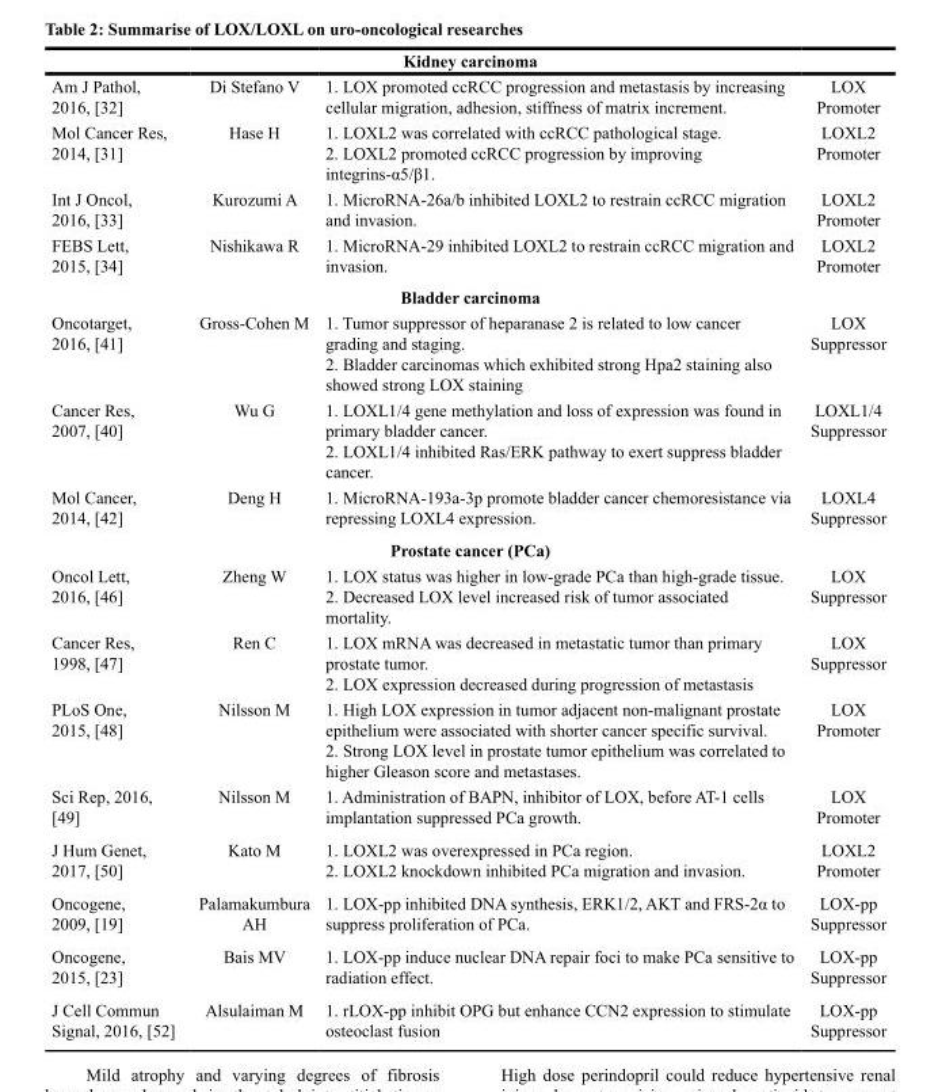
<table><thead><tr><td colspan="4">Kidney carcinoma</td></tr><tr><td>Am J Pathol, 2016, [32]</td><td>Di Stefano V</td><td>1. LOX promoted ccRCC progression and metastasis by increasing cellular migration, adhesion, stiffness of matrix increment.</td><td>LOX Promoter</td></tr></thead><tbody><tr><td>Mol Cancer Res, 2014, [31]</td><td>Hase H</td><td>1. LOXL2 was correlated with ccRCC pathological stage. 2. LOXL2 promoted ccRCC progression by improving integrins-α5/β1.</td><td>LOXL2 Promoter</td></tr><tr><td>Int J Oncol, 2016, [33]</td><td>Kurozumi A</td><td>1. MicroRNA-26a/b inhibited LOXL2 to restrain ccRCC migration and invasion.</td><td>LOXL2 Promoter</td></tr><tr><td>FEBS Lett, 2015, [34]</td><td>Nishikawa R</td><td>1. MicroRNA-29 inhibited LOXL2 to restrain ccRCC migration and invasion.</td><td>LOXL2 Promoter</td></tr><tr><td colspan="4">Bladder carcinoma</td></tr><tr><td>Oncotarget, 2016, [41]</td><td>Gross-Cohen M</td><td>1. Tumor suppressor of heparanase 2 is related to low cancer grading and staging. 2. Bladder carcinomas which exhibited strong Hpa2 staining also showed strong LOX staining</td><td>LOX Suppressor</td></tr><tr><td>Cancer Res, 2007, [40]</td><td>Wu G</td><td>1. LOXL1/4 gene methylation and loss of expression was found in primary bladder cancer. 2. LOXL1/4 inhibited Ras/ERK pathway to exert suppress bladder cancer.</td><td>LOXL1/4 Suppressor</td></tr><tr><td>Mol Cancer, 2014, [42]</td><td>Deng H</td><td>1. MicroRNA-193a-3p promote bladder cancer chemoresistance via repressing LOXL4 expression.</td><td>LOXL4 Suppressor</td></tr><tr><td colspan="4">Prostate cancer (PCa)</td></tr><tr><td>Oncol Lett, 2016, [46]</td><td>Zheng W</td><td>1. LOX status was higher in low-grade PCa than high-grade tissue. 2. Decreased LOX level increased risk of tumor associated mortality.</td><td>LOX Suppressor</td></tr><tr><td>Cancer Res, 1998, [47]</td><td>Ren C</td><td>1. LOX mRNA was decreased in metastatic tumor than primary prostate tumor. 2. LOX expression decreased during progression of metastasis</td><td>LOX Suppressor</td></tr><tr><td>PLoS One, 2015, [48]</td><td>Nilsson M</td><td>1. High LOX expression in tumor adjacent non-malignant prostate epithelium were associated with shorter cancer specific survival. 2. Strong LOX level in prostate tumor epithelium was correlated to higher Gleason score and metastases.</td><td>LOX Promoter</td></tr><tr><td>Sci Rep, 2016, [49]</td><td>Nilsson M</td><td>1. Administration of BAPN, inhibitor of LOX, before AT-1 cells implantation suppressed PCa growth.</td><td>LOX Promoter</td></tr><tr><td>J Hum Genet, 2017, [50]</td><td>Kato M</td><td>1. LOXL2 was overexpressed in PCa region. 2. LOXL2 knockdown inhibited PCa migration and invasion.</td><td>LOXL2 Promoter</td></tr><tr><td>Oncogene, 2009, [19]</td><td>Palamakumbura AH</td><td>1. LOX-pp inhibited DNA synthesis, ERK1/2, AKT and FRS-2α to suppress proliferation of PCa.</td><td>LOX-pp Suppressor</td></tr><tr><td>Oncogene, 2015, [23]</td><td>Bais MV</td><td>1. LOX-pp induce nuclear DNA repair foci to make PCa sensitive to radiation effect.</td><td>LOX-pp Suppressor</td></tr><tr><td>J Cell Commun Signal, 2016, [52]</td><td>Alsulaiman M</td><td>1. rLOX-pp inhibit OPG but enhance CCN2 expression to stimulate osteoclast fusion</td><td>LOX-pp Suppressor</td></tr></tbody></table>